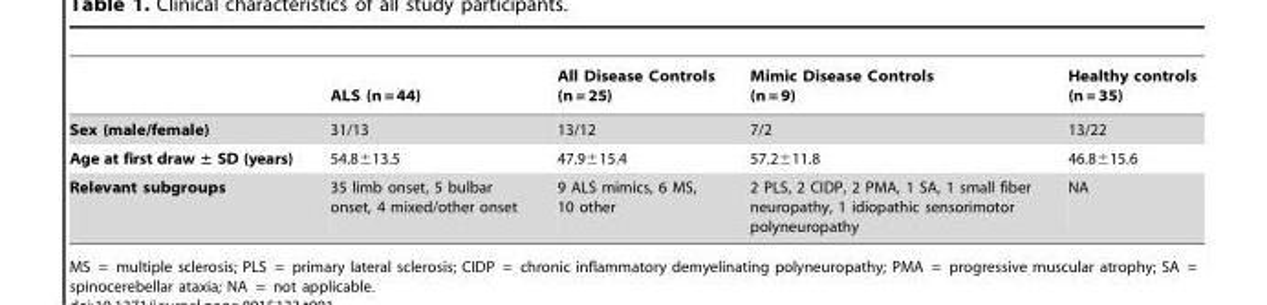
<table><thead><tr><td></td><td>ALS (n = 44)</td><td>All Disease Controls (n = 25)</td><td>Mimic Disease Controls (n = 9)</td><td>Healthy controls (n = 35)</td></tr></thead><tbody><tr><td>Sex (male/female)</td><td>31/13</td><td>13/12</td><td>7/2</td><td>13/22</td></tr><tr><td>Age at first draw ± SD (years)</td><td>54.8±13.5</td><td>47.9±15.4</td><td>57.2±11.8</td><td>46.8±15.6</td></tr><tr><td>Relevant subgroups</td><td>35 limb onset, 5 bulbar onset, 4 mixed/other onset</td><td>9 ALS mimics, 6 MS, 10 other</td><td>2 PLS, 2 CIDP, 2 PMA, 1 SA, 1 small fiber neuropathy, 1 idiopathic sensorimotor polyneuropathy</td><td>NA</td></tr></tbody></table>